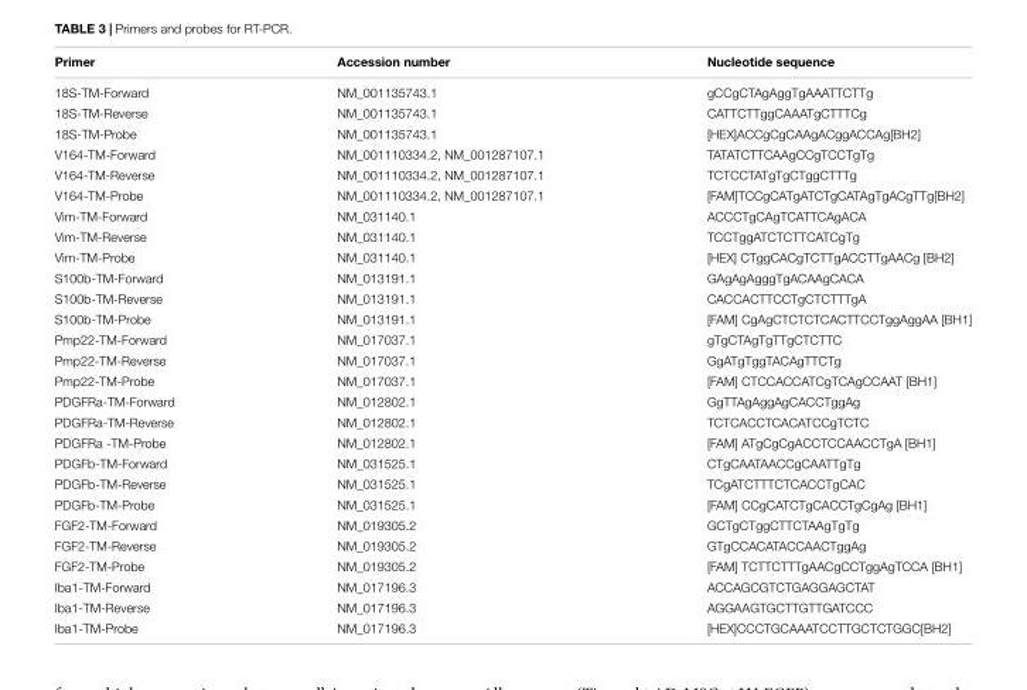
<table><thead><tr><td>Primer</td><td>Accession number</td><td>Nucleotide sequence</td></tr></thead><tbody><tr><td>18S-TM-Forward</td><td>NM_001135743.1</td><td>gCCgCTAgAggTgAAATTCTTg</td></tr><tr><td>18S-TM-Reverse</td><td>NM_001135743.1</td><td>CATTCTTggCAAATgCTTTCg</td></tr><tr><td>18S-TM-Probe</td><td>NM_001135743.1</td><td>[HEX]ACCgCgCAAgACggACCAg[BH2]</td></tr><tr><td>V164-TM-Forward</td><td>NM_001110334.2, NM_001287107.1</td><td>TATATCTTCAAgCCgTCCTgTg</td></tr><tr><td>V164-TM-Reverse</td><td>NM_001110334.2, NM_001287107.1</td><td>TCTCCTATgTgCTggCTTTg</td></tr><tr><td>V164-TM-Probe</td><td>NM_001110334.2, NM_001287107.1</td><td>[FAM]TCCgCATgATCTgCATAgTgACgTTg[BH2]</td></tr><tr><td>Vim-TM-Forward</td><td>NM_031140.1</td><td>ACCCTgCAgTCATTCAgACA</td></tr><tr><td>Vim-TM-Reverse</td><td>NM_031140.1</td><td>TCCTggATCTCTTCATCgTg</td></tr><tr><td>Vim-TM-Probe</td><td>NM_031140.1</td><td>[HEX] CTggCACgTCTTgACCTTgAACg [BH2]</td></tr><tr><td>S100b-TM-Forward</td><td>NM_013191.1</td><td>GAgAgAgggTgACAAgCACA</td></tr><tr><td>S100b-TM-Reverse</td><td>NM_013191.1</td><td>CACCACTTCCTgCTCTTTgA</td></tr><tr><td>S100b-TM-Probe</td><td>NM_013191.1</td><td>[FAM] CgAgCTCTCTCACTTCCTggAggAA [BH1]</td></tr><tr><td>Pmp22-TM-Forward</td><td>NM_017037.1</td><td>gTgCTAgTgTTgCTCTTC</td></tr><tr><td>Pmp22-TM-Reverse</td><td>NM_017037.1</td><td>GgATgTggTACAgTTCTg</td></tr><tr><td>Pmp22-TM-Probe</td><td>NM_017037.1</td><td>[FAM] CTCCACCATCgTCAgCCAAT [BH1]</td></tr><tr><td>PDGFRa-TM-Forward</td><td>NM_012802.1</td><td>GgTTAgAggAgCACCTggAg</td></tr><tr><td>PDGFRa-TM-Reverse</td><td>NM_012802.1</td><td>TCTCACCTCACATCCgTCTC</td></tr><tr><td>PDGFRa -TM-Probe</td><td>NM_012802.1</td><td>[FAM] ATgCgCgACCTCCAACCTgA [BH1]</td></tr><tr><td>PDGFb-TM-Forward</td><td>NM_031525.1</td><td>CTgCAATAACCgCAATTgTg</td></tr><tr><td>PDGFb-TM-Reverse</td><td>NM_031525.1</td><td>TCgATCTTTCTCACCTgCAC</td></tr><tr><td>PDGFb-TM-Probe</td><td>NM_031525.1</td><td>[FAM] CCgCATCTgCACCTgCgAg [BH1]</td></tr><tr><td>FGF2-TM-Forward</td><td>NM_019305.2</td><td>GCTgCTggCTTCTAAgTgTg</td></tr><tr><td>FGF2-TM-Reverse</td><td>NM_019305.2</td><td>GTgCCACATACCAACTggAg</td></tr><tr><td>FGF2-TM-Probe</td><td>NM_019305.2</td><td>[FAM] TCTTCTTTgAACgCCTggAgTCCA [BH1]</td></tr><tr><td>Iba1-TM-Forward</td><td>NM_017196.3</td><td>ACCAGCGTCTGAGGAGCTAT</td></tr><tr><td>Iba1-TM-Reverse</td><td>NM_017196.3</td><td>AGGAAGTGCTTGTTGATCCC</td></tr><tr><td>Iba1-TM-Probe</td><td>NM_017196.3</td><td>[HEX]CCCTGCAAATCCTTGCTCTGGC[BH2]</td></tr></tbody></table>